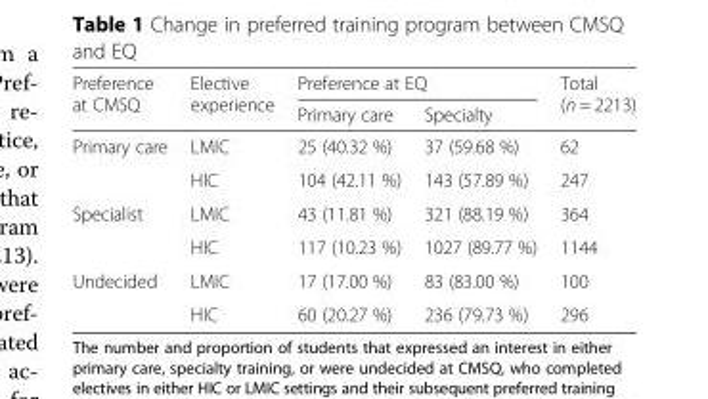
<table><thead><tr><td rowspan="2">Preference at CMSQ</td><td rowspan="2">Elective experience</td><td colspan="2">Preference at EQ</td><td rowspan="2">Total (n = 2213)</td></tr><tr><td>Primary care</td><td>Specialty</td></tr></thead><tbody><tr><td rowspan="2">Primary care</td><td>LMIC</td><td>25 (40.32 %)</td><td>37 (59.68 %)</td><td>62</td></tr><tr><td>HIC</td><td>104 (42.11 %)</td><td>143 (57.89 %)</td><td>247</td></tr><tr><td rowspan="2">Specialist</td><td>LMIC</td><td>43 (11.81 %)</td><td>321 (88.19 %)</td><td>364</td></tr><tr><td>HIC</td><td>117 (10.23 %)</td><td>1027 (89.77 %)</td><td>1144</td></tr><tr><td rowspan="2">Undecided</td><td>LMIC</td><td>17 (17.00 %)</td><td>83 (83.00 %)</td><td>100</td></tr><tr><td>HIC</td><td>60 (20.27 %)</td><td>236 (79.73 %)</td><td>296</td></tr></tbody></table>